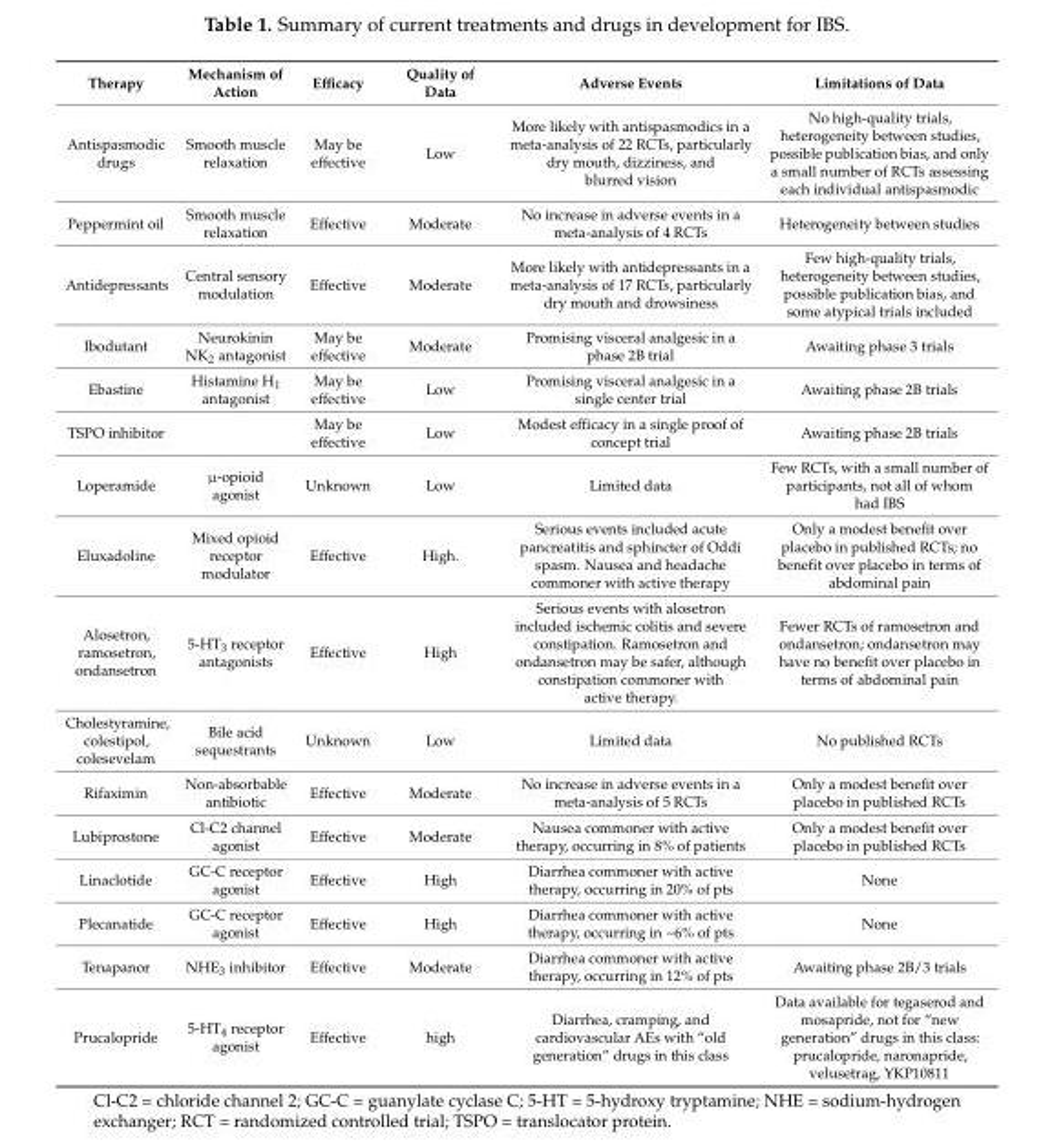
<table><thead><tr><td>Therapy</td><td>Mechanism of Action</td><td>Efficacy</td><td>Quality of Data</td><td>Adverse Events</td><td>Limitations of Data</td></tr></thead><tbody><tr><td>Antispasmodic drugs</td><td>Smooth muscle relaxation</td><td>May be effective</td><td>Low</td><td>More likely with antispasmodics in a meta-analysis of 22 RCTs, particularly dry mouth, dizziness, and blurred vision</td><td>No high-quality trials, heterogeneity between studies, possible publication bias, and only a small number of RCTs assessing each individual antispasmodic</td></tr><tr><td>Peppermint oil</td><td>Smooth muscle relaxation</td><td>Effective</td><td>Moderate</td><td>No increase in adverse events in a meta-analysis of 4 RCTs</td><td>Heterogeneity between studies</td></tr><tr><td>Antidepressants</td><td>Central sensory modulation</td><td>Effective</td><td>Moderate</td><td>More likely with antidepressants in a meta-analysis of 17 RCTs, particularly dry mouth and drowsiness</td><td>Few high-quality trials, heterogeneity between studies, possible publication bias, and some atypical trials included</td></tr><tr><td>Ibodutant</td><td>Neurokinin NK<sub>2</sub> antagonist</td><td>May be effective</td><td>Moderate</td><td>Promising visceral analgesic in a phase 2B trial</td><td>Awaiting phase 3 trials</td></tr><tr><td>Ebastine</td><td>Histamine H<sub>1</sub> antagonist</td><td>May be effective</td><td>Low</td><td>Promising visceral analgesic in a single center trial</td><td>Awaiting phase 2B trials</td></tr><tr><td>TSPO inhibitor</td><td></td><td>May be effective</td><td>Low</td><td>Modest efficacy in a single proof of concept trial</td><td>Awaiting phase 2B trials</td></tr><tr><td>Loperamide</td><td>µ-opioid agonist</td><td>Unknown</td><td>Low</td><td>Limited data</td><td>Few RCTs, with a small number of participants, not all of whom had IBS</td></tr><tr><td>Eluxadoline</td><td>Mixed opioid receptor modulator</td><td>Effective</td><td>High.</td><td>Serious events included acute pancreatitis and sphincter of Oddi spasm. Nausea and headache commoner with active therapy</td><td>Only a modest benefit over placebo in published RCTs; no benefit over placebo in terms of abdominal pain</td></tr><tr><td>Alosetron, ramosetron, ondansetron</td><td>5-HT<sub>3</sub> receptor antagonists</td><td>Effective</td><td>High</td><td>Serious events with alosetron included ischemic colitis and severe constipation. Ramosetron and ondansetron may be safer, although constipation commoner with active therapy.</td><td>Fewer RCTs of ramosetron and ondansetron; ondansetron may have no benefit over placebo in terms of abdominal pain</td></tr><tr><td>Cholestyramine, colestipol, colesevelam</td><td>Bile acid sequestrants</td><td>Unknown</td><td>Low</td><td>Limited data</td><td>No published RCTs</td></tr><tr><td>Rifaximin</td><td>Non-absorbable antibiotic</td><td>Effective</td><td>Moderate</td><td>No increase in adverse events in a meta-analysis of 5 RCTs</td><td>Only a modest benefit over placebo in published RCTs</td></tr><tr><td>Lubiprostone</td><td>Cl-C2 channel agonist</td><td>Effective</td><td>Moderate</td><td>Nausea commoner with active therapy, occurring in 8% of patients</td><td>Only a modest benefit over placebo in published RCTs</td></tr><tr><td>Linaclotide</td><td>GC-C receptor agonist</td><td>Effective</td><td>High</td><td>Diarrhea commoner with active therapy, occurring in 20% of pts</td><td>None</td></tr><tr><td>Plecanatide</td><td>GC-C receptor agonist</td><td>Effective</td><td>High</td><td>Diarrhea commoner with active therapy, occurring in ~6% of pts</td><td>None</td></tr><tr><td>Tenapanor</td><td>NHE<sub>3</sub> inhibitor</td><td>Effective</td><td>Moderate</td><td>Diarrhea commoner with active therapy, occurring in 12% of pts</td><td>Awaiting phase 2B/3 trials</td></tr><tr><td>Prucalopride</td><td>5-HT<sub>4</sub> receptor agonist</td><td>Effective</td><td>high</td><td>Diarrhea, cramping, and cardiovascular AEs with “old generation” drugs in this class</td><td>Data available for tegaserod and mosapride, not for “new generation” drugs in this class: prucalopride, naronapride, velusetrag, YKP10811</td></tr></tbody></table>